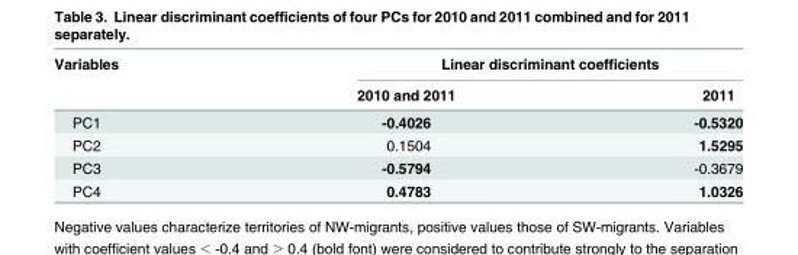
<table><thead><tr><td rowspan="2">Variables</td><td colspan="2">Linear discriminant coefficients</td></tr><tr><td>2010 and 2011</td><td>2011</td></tr></thead><tbody><tr><td>PC1</td><td>-0.4026</td><td>-0.5320</td></tr><tr><td>PC2</td><td>0.1504</td><td>1.5295</td></tr><tr><td>PC3</td><td>-0.5794</td><td>-0.3679</td></tr><tr><td>PC4</td><td>0.4783</td><td>1.0326</td></tr></tbody></table>